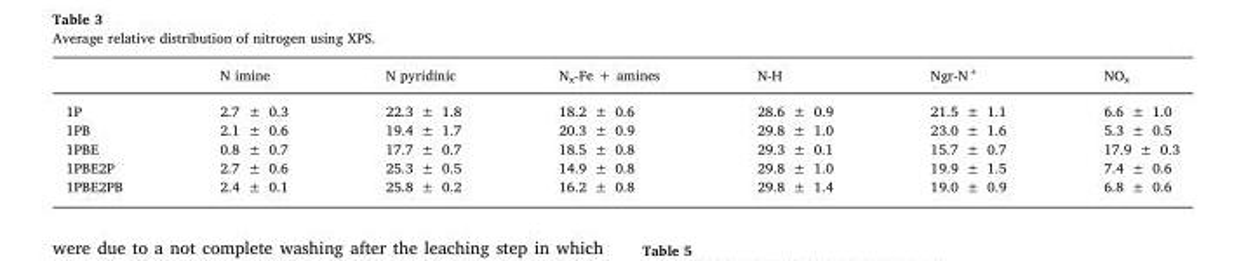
<table><thead><tr><td></td><td>N imine</td><td>N pyridinic</td><td>N<sub>x</sub>-Fe + amines</td><td>N-H</td><td>Ngr-N<sup>+</sup></td><td>NO<sub>x</sub></td></tr></thead><tbody><tr><td>1P</td><td>2.7 ± 0.3</td><td>22.3 ± 1.8</td><td>18.2 ± 0.6</td><td>28.6 ± 0.9</td><td>21.5 ± 1.1</td><td>6.6 ± 1.0</td></tr><tr><td>1PB</td><td>2.1 ± 0.6</td><td>19.4 ± 1.7</td><td>20.3 ± 0.9</td><td>29.8 ± 1.0</td><td>23.0 ± 1.6</td><td>5.3 ± 0.5</td></tr><tr><td>1PBE</td><td>0.8 ± 0.7</td><td>17.7 ± 0.7</td><td>18.5 ± 0.8</td><td>29.3 ± 0.1</td><td>15.7 ± 0.7</td><td>17.9 ± 0.3</td></tr><tr><td>1PBE2P</td><td>2.7 ± 0.6</td><td>25.3 ± 0.5</td><td>14.9 ± 0.8</td><td>29.8 ± 1.0</td><td>19.9 ± 1.5</td><td>7.4 ± 0.6</td></tr><tr><td>1PBE2PB</td><td>2.4 ± 0.1</td><td>25.8 ± 0.2</td><td>16.2 ± 0.8</td><td>29.8 ± 1.4</td><td>19.0 ± 0.9</td><td>6.8 ± 0.6</td></tr></tbody></table>